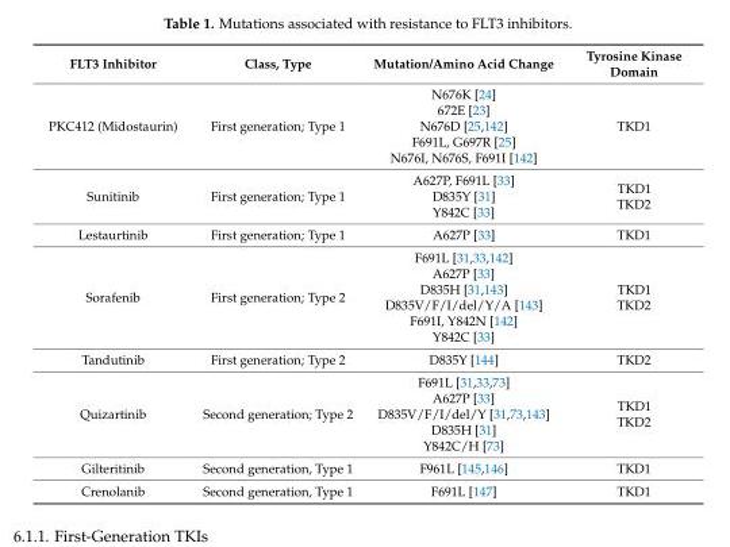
<table><thead><tr><td>FLT3 Inhibitor</td><td>Class, Type</td><td>Mutation/Amino Acid Change</td><td>Tyrosine Kinase Domain</td></tr></thead><tbody><tr><td>PKC412 (Midostaurin)</td><td>First generation; Type 1</td><td>N676K [24] 672E [23] N676D [25,142] F691L, G697R [25] N676I, N676S, F691I [142]</td><td>TKD1</td></tr><tr><td>Sunitinib</td><td>First generation; Type 1</td><td>A627P, F691L [33] D835Y [31] Y842C [33]</td><td>TKD1 TKD2</td></tr><tr><td>Lestaurtinib</td><td>First generation; Type 1</td><td>A627P [33]</td><td>TKD1</td></tr><tr><td>Sorafenib</td><td>First generation; Type 2</td><td>F691L [31,33,142] A627P [33] D835H [31,143] D835V/F/I/del/Y/A [143] F691I, Y842N [142] Y842C [33]</td><td>TKD1 TKD2</td></tr><tr><td>Tandutinib</td><td>First generation; Type 2</td><td>D835Y [144]</td><td>TKD2</td></tr><tr><td>Quizartinib</td><td>Second generation; Type 2</td><td>F691L [31,33,73] A627P [33] D835V/F/I/del/Y [31,73,143] D835H [31] Y842C/H [73]</td><td>TKD1 TKD2</td></tr><tr><td>Gilteritinib</td><td>Second generation, Type 1</td><td>F961L [145,146]</td><td>TKD1</td></tr><tr><td>Crenolanib</td><td>Second generation, Type 1</td><td>F691L [147]</td><td>TKD1</td></tr></tbody></table>